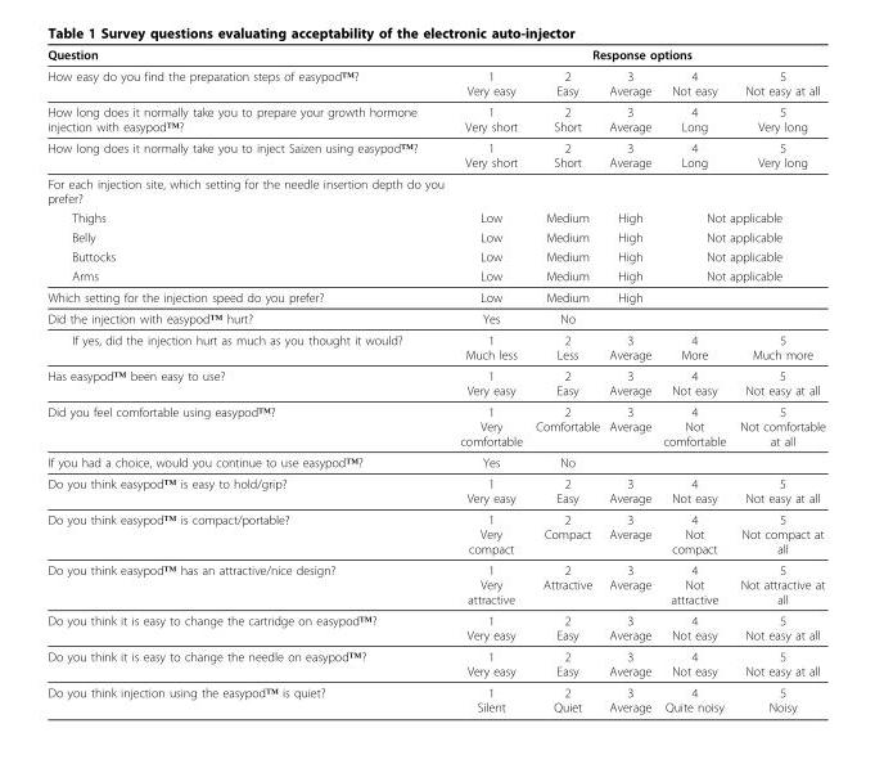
<table><thead><tr><td rowspan="2">Question How easy do you find the preparation steps of easypod™?</td><td colspan="5">Response options</td></tr><tr><td>1 Very easy</td><td>2 Easy</td><td>3 Average</td><td>4 Not easy</td><td>5 Not easy at all</td></tr></thead><tbody><tr><td>How long does it normally take you to prepare your growth hormone injection with easypod™?</td><td>1 Very short</td><td>2 Short</td><td>3 Average</td><td>4 Long</td><td>5 Very long</td></tr><tr><td>How long does it normally take you to inject Saizen using easypod™?</td><td>1 Very short</td><td>2 Short</td><td>3 Average</td><td>4 Long</td><td>5 Very long</td></tr><tr><td colspan="6">For each injection site, which setting for the needle insertion depth do you prefer?</td></tr><tr><td>Thighs</td><td>Low</td><td>Medium</td><td>High</td><td colspan="2">Not applicable</td></tr><tr><td>Belly</td><td>Low</td><td>Medium</td><td>High</td><td colspan="2">Not applicable</td></tr><tr><td>Buttocks</td><td>Low</td><td>Medium</td><td>High</td><td colspan="2">Not applicable</td></tr><tr><td>Arms</td><td>Low</td><td>Medium</td><td>High</td><td colspan="2">Not applicable</td></tr><tr><td>Which setting for the injection speed do you prefer?</td><td>Low</td><td>Medium</td><td>High</td><td></td><td></td></tr><tr><td>Did the injection with easypod™ hurt?</td><td>Yes</td><td>No</td><td></td><td></td><td></td></tr><tr><td>If yes, did the injection hurt as much as you thought it would?</td><td>1 Much less</td><td>2 Less</td><td>3 Average</td><td>4 More</td><td>5 Much more</td></tr><tr><td>Has easypod™ been easy to use?</td><td>1 Very easy</td><td>2 Easy</td><td>3 Average</td><td>4 Not easy</td><td>5 Not easy at all</td></tr><tr><td>Did you feel comfortable using easypod™?</td><td>1 Very comfortable</td><td>2 Comfortable</td><td>3 Average</td><td>4 Not comfortable</td><td>5 Not comfortable at all</td></tr><tr><td>If you had a choice, would you continue to use easypod™?</td><td>Yes</td><td>No</td><td></td><td></td><td></td></tr><tr><td>Do you think easypod™ is easy to hold/grip?</td><td>1 Very easy</td><td>2 Easy</td><td>3 Average</td><td>4 Not easy</td><td>5 Not easy at all</td></tr><tr><td>Do you think easypod™ is compact/portable?</td><td>1 Very compact</td><td>2 Compact</td><td>3 Average</td><td>4 Not compact</td><td>5 Not compact at all</td></tr><tr><td>Do you think easypod™ has an attractive/nice design?</td><td>1 Very attractive</td><td>2 Attractive</td><td>3 Average</td><td>4 Not attractive</td><td>5 Not attractive at all</td></tr><tr><td>Do you think it is easy to change the cartridge on easypod™?</td><td>1 Very easy</td><td>2 Easy</td><td>3 Average</td><td>4 Not easy</td><td>5 Not easy at all</td></tr><tr><td>Do you think it is easy to change the needle on easypod™?</td><td>1 Very easy</td><td>2 Easy</td><td>3 Average</td><td>4 Not easy</td><td>5 Not easy at all</td></tr><tr><td>Do you think injection using the easypod™ is quiet?</td><td>1 Silent</td><td>2 Quiet</td><td>3 Average</td><td>4 Quite noisy</td><td>5 Noisy</td></tr></tbody></table>